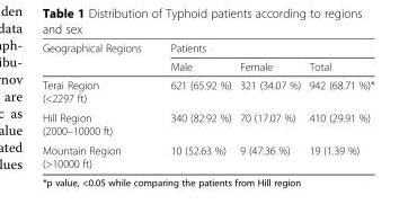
<table><thead><tr><td rowspan="2">Geographical Regions</td><td colspan="3">Patients</td></tr><tr><td>Male</td><td>Female</td><td>Total</td></tr></thead><tbody><tr><td>Terai Region (&lt;2297 ft)</td><td>621 (65.92 %)</td><td>321 (34.07 %)</td><td>942 (68.71 %)*</td></tr><tr><td>Hill Region (2000–10000 ft)</td><td>340 (82.92 %)</td><td>70 (17.07 %)</td><td>410 (29.91 %)</td></tr><tr><td>Mountain Region (&gt;10000 ft)</td><td>10 (52.63 %)</td><td>9 (47.36 %)</td><td>19 (1.39 %)</td></tr></tbody></table>